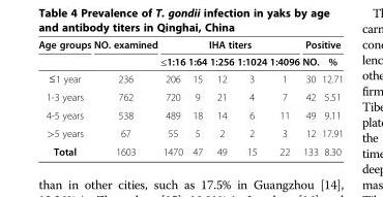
<table><thead><tr><td rowspan="2">Age groups</td><td rowspan="2">NO. examined</td><td colspan="5">IHA titers</td><td colspan="2">Positive</td></tr><tr><td>≤1:16</td><td>1:64</td><td>1:256</td><td>1:1024</td><td>1:4096</td><td>NO.</td><td>%</td></tr></thead><tbody><tr><td>≤1 year</td><td>236</td><td>206</td><td>15</td><td>12</td><td>3</td><td>1</td><td>30</td><td>12.71</td></tr><tr><td>1-3 years</td><td>762</td><td>720</td><td>9</td><td>21</td><td>4</td><td>7</td><td>42</td><td>5.51</td></tr><tr><td>4-5 years</td><td>538</td><td>489</td><td>18</td><td>14</td><td>6</td><td>11</td><td>49</td><td>9.11</td></tr><tr><td>&gt;5 years</td><td>67</td><td>55</td><td>5</td><td>2</td><td>2</td><td>3</td><td>12</td><td>17.91</td></tr><tr><td>Total</td><td>1603</td><td>1470</td><td>47</td><td>49</td><td>15</td><td>22</td><td>133</td><td>8.30</td></tr></tbody></table>